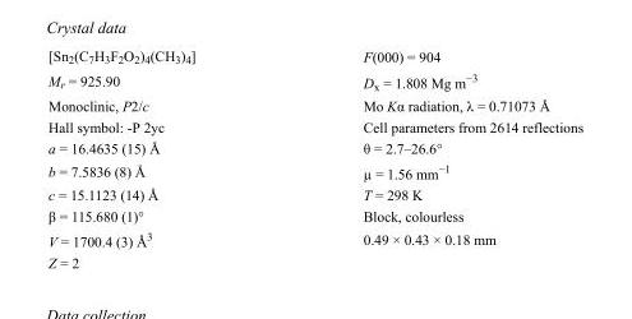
<table><tbody><tr><td>[Sn<sub>2</sub>(C<sub>7</sub>H<sub>3</sub>F<sub>2</sub>O<sub>2</sub>)<sub>4</sub>(CH<sub>3</sub>)<sub>4</sub>]</td><td>F(000) = 904</td></tr><tr><td>M<sub>r</sub> = 925.90</td><td>D<sub>x</sub> = 1.808 Mg m<sup>−3</sup></td></tr><tr><td>Monoclinic, P2/c</td><td>Mo Kα radiation, λ = 0.71073 Å</td></tr><tr><td>Hall symbol: -P 2yc</td><td>Cell parameters from 2614 reflections</td></tr><tr><td>a = 16.4635 (15) Å</td><td>θ = 2.7–26.6°</td></tr><tr><td>b = 7.5836 (8) Å</td><td>µ = 1.56 mm<sup>−1</sup></td></tr><tr><td>c = 15.1123 (14) Å</td><td>T = 298 K</td></tr><tr><td>β = 115.680 (1)°</td><td>Block, colourless</td></tr><tr><td>V = 1700.4 (3) Å<sup>3</sup></td><td>0.49 × 0.43 × 0.18 mm</td></tr><tr><td>Z = 2</td><td></td></tr></tbody></table>